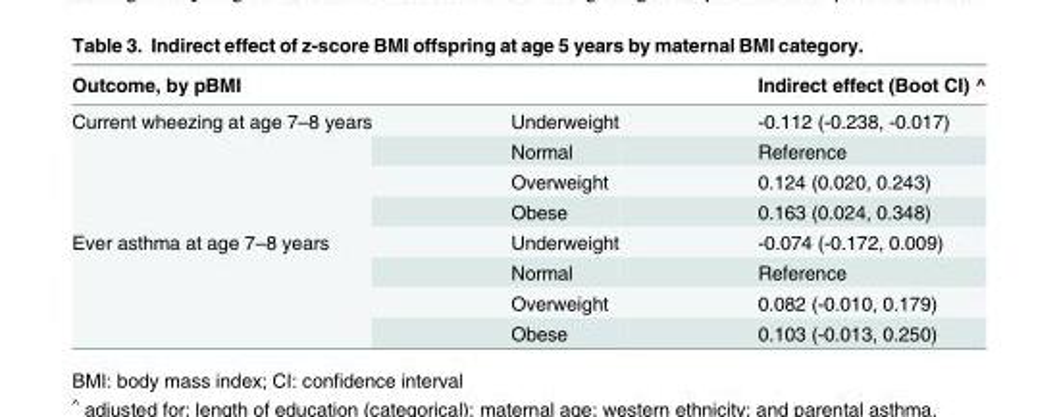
<table><thead><tr><td>Outcome, by pBMI</td><td></td><td>Indirect effect (Boot CI) ^</td></tr></thead><tbody><tr><td rowspan="4">Current wheezing at age 7–8 years</td><td>Underweight</td><td>-0.112 (-0.238, -0.017)</td></tr><tr><td>Normal</td><td>Reference</td></tr><tr><td>Overweight</td><td>0.124 (0.020, 0.243)</td></tr><tr><td>Obese</td><td>0.163 (0.024, 0.348)</td></tr><tr><td rowspan="4">Ever asthma at age 7–8 years</td><td>Underweight</td><td>-0.074 (-0.172, 0.009)</td></tr><tr><td>Normal</td><td>Reference</td></tr><tr><td>Overweight</td><td>0.082 (-0.010, 0.179)</td></tr><tr><td>Obese</td><td>0.103 (-0.013, 0.250)</td></tr></tbody></table>